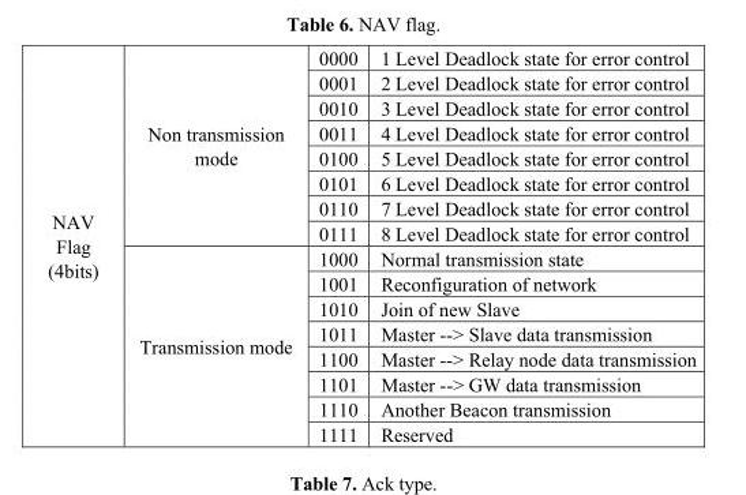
<table><tbody><tr><td rowspan="16">NAV Flag (4bits)</td><td rowspan="8">Non transmission mode</td><td>0000</td><td>1 Level Deadlock state for error control</td></tr><tr><td>0001</td><td>2 Level Deadlock state for error control</td></tr><tr><td>0010</td><td>3 Level Deadlock state for error control</td></tr><tr><td>0011</td><td>4 Level Deadlock state for error control</td></tr><tr><td>0100</td><td>5 Level Deadlock state for error control</td></tr><tr><td>0101</td><td>6 Level Deadlock state for error control</td></tr><tr><td>0110</td><td>7 Level Deadlock state for error control</td></tr><tr><td>0111</td><td>8 Level Deadlock state for error control</td></tr><tr><td rowspan="8">Transmission mode</td><td>1000</td><td>Normal transmission state</td></tr><tr><td>1001</td><td>Reconfiguration of network</td></tr><tr><td>1010</td><td>Join of new Slave</td></tr><tr><td>1011</td><td>Master --&gt; Slave data transmission</td></tr><tr><td>1100</td><td>Master --&gt; Relay node data transmission</td></tr><tr><td>1101</td><td>Master --&gt; GW data transmission</td></tr><tr><td>1110</td><td>Another Beacon transmission</td></tr><tr><td>1111</td><td>Reserved</td></tr></tbody></table>